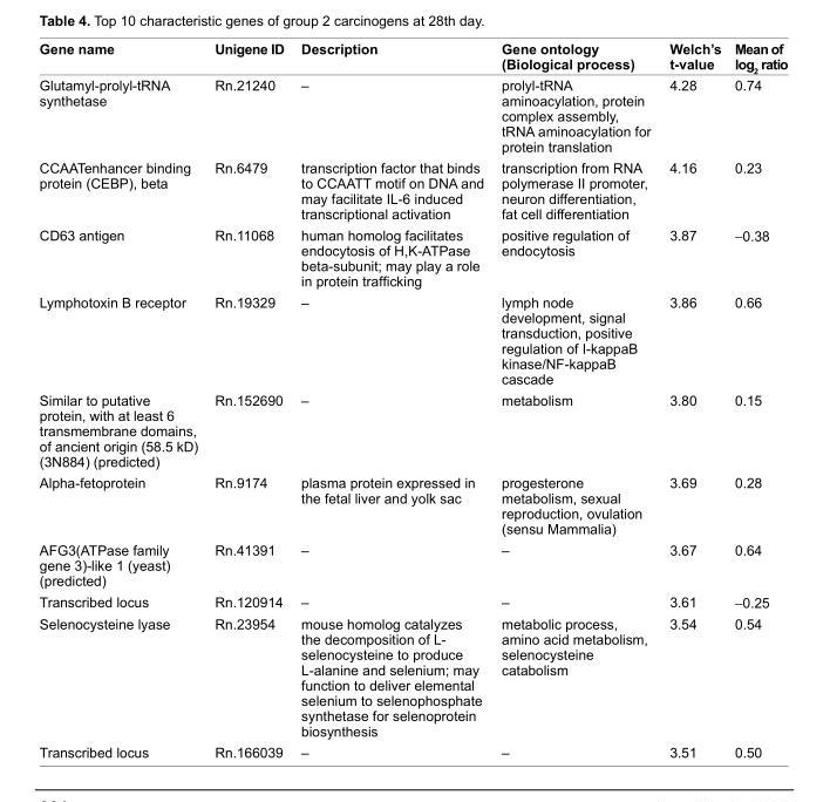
<table><thead><tr><td>Gene name</td><td>Unigene ID</td><td>Description</td><td>Gene ontology (Biological process)</td><td>Welch’s t-value</td><td>Mean of log<sub>2</sub> ratio</td></tr></thead><tbody><tr><td>glutamyl-prolyl-trnA synthetase</td><td>rn.21240</td><td>–</td><td>prolyl-trnA aminoacylation, protein complex assembly, trnA aminoacylation for protein translation</td><td>4.28</td><td>0.74</td></tr><tr><td>CCAATenhancer binding protein (CeBP), beta</td><td>rn.6479</td><td>transcription factor that binds to CCAATT motif on DnA and may facilitate IL-6 induced transcriptional activation</td><td>transcription from rnA polymerase II promoter, neuron differentiation, fat cell differentiation</td><td>4.16</td><td>0.23</td></tr><tr><td>CD63 antigen</td><td>rn.11068</td><td>human homolog facilitates endocytosis of h,K-ATPase beta-subunit; may play a role in protein trafficking</td><td>positive regulation of endocytosis</td><td>3.87</td><td>-0.38</td></tr><tr><td>Lymphotoxin B receptor</td><td>rn.19329</td><td>–</td><td>lymph node development, signal transduction, positive regulation of I-kappaB kinase/nF-kappaB cascade</td><td>3.86</td><td>0.66</td></tr><tr><td>similar to putative protein, with at least 6 transmembrane domains, of ancient origin (58.5 kD) (3n884) (predicted)</td><td>rn.152690</td><td>–</td><td>metabolism</td><td>3.80</td><td>0.15</td></tr><tr><td>Alpha-fetoprotein</td><td>rn.9174</td><td>plasma protein expressed in the fetal liver and yolk sac</td><td>progesterone metabolism, sexual reproduction, ovulation (sensu Mammalia)</td><td>3.69</td><td>0.28</td></tr><tr><td>AFg3(ATPase family gene 3)-like 1 (yeast) (predicted)</td><td>rn.41391</td><td>–</td><td>–</td><td>3.67</td><td>0.64</td></tr><tr><td>Transcribed locus</td><td>rn.120914</td><td>–</td><td>–</td><td>3.61</td><td>-0.25</td></tr><tr><td>selenocysteine lyase</td><td>rn.23954</td><td>mouse homolog catalyzes the decomposition of L- selenocysteine to produce L-alanine and selenium; may function to deliver elemental selenium to selenophosphate synthetase for selenoprotein biosynthesis</td><td>metabolic process, amino acid metabolism, selenocysteine catabolism</td><td>3.54</td><td>0.54</td></tr><tr><td>Transcribed locus</td><td>rn.166039</td><td>–</td><td>–</td><td>3.51</td><td>0.50</td></tr></tbody></table>